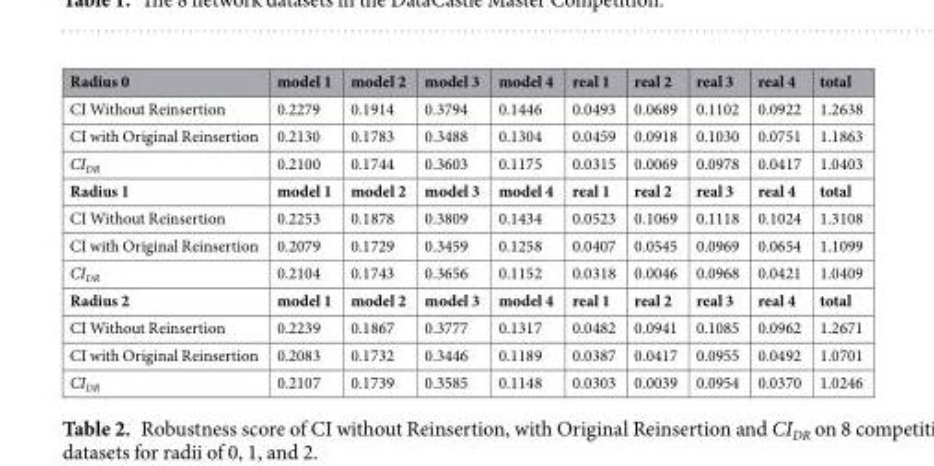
<table><thead><tr><td>Radius 0</td><td>model 1</td><td>model 2</td><td>model 3</td><td>model 4</td><td>real 1</td><td>real 2</td><td>real 3</td><td>real 4</td><td>total</td></tr></thead><tbody><tr><td>CI Without Reinsertion</td><td>0.2279</td><td>0.1914</td><td>0.3794</td><td>0.1446</td><td>0.0493</td><td>0.0689</td><td>0.1102</td><td>0.0922</td><td>1.2638</td></tr><tr><td>CI with Original Reinsertion</td><td>0.2130</td><td>0.1783</td><td>0.3488</td><td>0.1304</td><td>0.0459</td><td>0.0918</td><td>0.1030</td><td>0.0751</td><td>1.1863</td></tr><tr><td>CI<sub>DR</sub></td><td>0.2100</td><td>0.1744</td><td>0.3603</td><td>0.1175</td><td>0.0315</td><td>0.0069</td><td>0.0978</td><td>0.0417</td><td>1.0403</td></tr><tr><td>Radius 1</td><td>model 1</td><td>model 2</td><td>model 3</td><td>model 4</td><td>real 1</td><td>real 2</td><td>real 3</td><td>real 4</td><td>total</td></tr><tr><td>CI Without Reinsertion</td><td>0.2253</td><td>0.1878</td><td>0.3809</td><td>0.1434</td><td>0.0523</td><td>0.1069</td><td>0.1118</td><td>0.1024</td><td>1.3108</td></tr><tr><td>CI with Original Reinsertion</td><td>0.2079</td><td>0.1729</td><td>0.3459</td><td>0.1258</td><td>0.0407</td><td>0.0545</td><td>0.0969</td><td>0.0654</td><td>1.1099</td></tr><tr><td>CI<sub>DR</sub></td><td>0.2104</td><td>0.1743</td><td>0.3656</td><td>0.1152</td><td>0.0318</td><td>0.0046</td><td>0.0968</td><td>0.0421</td><td>1.0409</td></tr><tr><td>Radius 2</td><td>model 1</td><td>model 2</td><td>model 3</td><td>model 4</td><td>real 1</td><td>real 2</td><td>real 3</td><td>real 4</td><td>total</td></tr><tr><td>CI Without Reinsertion</td><td>0.2239</td><td>0.1867</td><td>0.3777</td><td>0.1317</td><td>0.0482</td><td>0.0941</td><td>0.1085</td><td>0.0962</td><td>1.2671</td></tr><tr><td>CI with Original Reinsertion</td><td>0.2083</td><td>0.1732</td><td>0.3446</td><td>0.1189</td><td>0.0387</td><td>0.0417</td><td>0.0955</td><td>0.0492</td><td>1.0701</td></tr><tr><td>CI<sub>DR</sub></td><td>0.2107</td><td>0.1739</td><td>0.3585</td><td>0.1148</td><td>0.0303</td><td>0.0039</td><td>0.0954</td><td>0.0370</td><td>1.0246</td></tr></tbody></table>